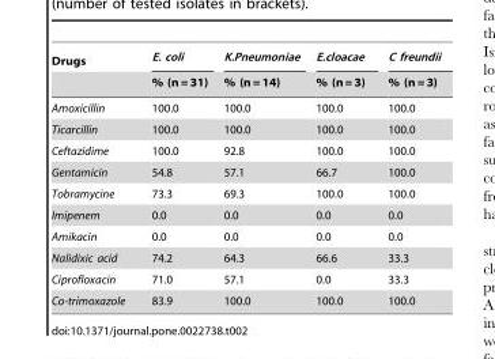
<table><thead><tr><td rowspan="2">Drugs</td><td rowspan="2">E. coli % (n = 31)</td><td rowspan="2">K.Pneumoniae % (n = 14)</td><td rowspan="2">E.cloacae % (n = 3)</td><td rowspan="2">C freundii % (n = 3)</td></tr><tr></tr></thead><tbody><tr><td>Amoxicillin</td><td>100.0</td><td>100.0</td><td>100.0</td><td>100.0</td></tr><tr><td>Ticarcillin</td><td>100.0</td><td>100.0</td><td>100.0</td><td>100.0</td></tr><tr><td>Ceftazidime</td><td>100.0</td><td>92.8</td><td>100.0</td><td>100.0</td></tr><tr><td>Gentamicin</td><td>54.8</td><td>57.1</td><td>66.7</td><td>100.0</td></tr><tr><td>Tobramycine</td><td>73.3</td><td>69.3</td><td>100.0</td><td>100.0</td></tr><tr><td>Imipenem</td><td>0.0</td><td>0.0</td><td>0.0</td><td>0.0</td></tr><tr><td>Amikacin</td><td>0.0</td><td>0.0</td><td>0.0</td><td>0.0</td></tr><tr><td>Nalidixic acid</td><td>74.2</td><td>64.3</td><td>66.6</td><td>33.3</td></tr><tr><td>Ciprofloxacin</td><td>71.0</td><td>57.1</td><td>0.0</td><td>33.3</td></tr><tr><td>Co-trimoxazole</td><td>83.9</td><td>100.0</td><td>100.0</td><td>100.0</td></tr></tbody></table>